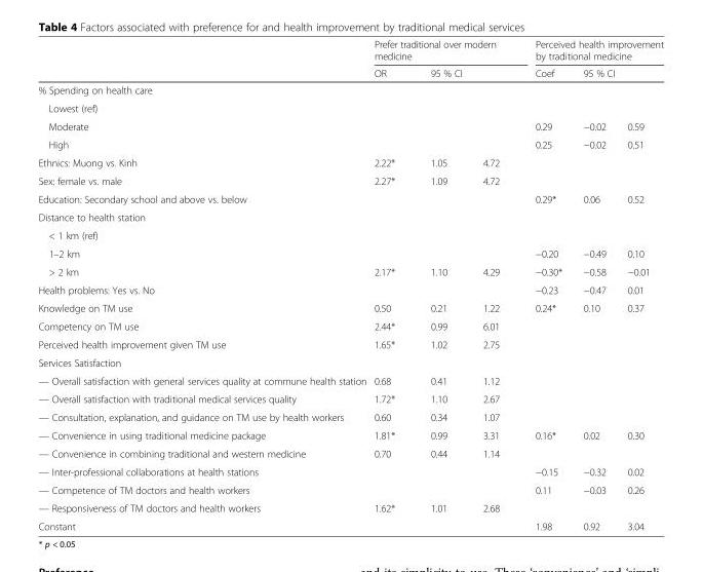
<table><thead><tr><td rowspan="3">% Spending on health care</td><td colspan="3">Prefer traditional over modern medicine</td><td colspan="3">Perceived health improvement by traditional medicine</td></tr><tr><td rowspan="2">OR</td><td colspan="2">95 % CI</td><td rowspan="2">Coef</td><td colspan="2">95 % CI</td></tr><tr><td></td><td></td><td></td><td></td></tr></thead><tbody><tr><td colspan="7">Lowest (ref)</td></tr><tr><td>Moderate</td><td></td><td></td><td></td><td>0.29</td><td>−0.02</td><td>0.59</td></tr><tr><td>High</td><td></td><td></td><td></td><td>0.25</td><td>−0.02</td><td>0.51</td></tr><tr><td>Ethnics: Muong vs. Kinh</td><td>2.22*</td><td>1.05</td><td>4.72</td><td></td><td></td><td></td></tr><tr><td>Sex: female vs. male</td><td>2.27*</td><td>1.09</td><td>4.72</td><td></td><td></td><td></td></tr><tr><td>Education: Secondary school and above vs. below</td><td></td><td></td><td></td><td>0.29*</td><td>0.06</td><td>0.52</td></tr><tr><td colspan="7">Distance to health station</td></tr><tr><td colspan="7">&lt; 1 km (ref)</td></tr><tr><td>1–2 km</td><td></td><td></td><td></td><td>−0.20</td><td>−0.49</td><td>0.10</td></tr><tr><td>&gt; 2 km</td><td>2.17*</td><td>1.10</td><td>4.29</td><td>−0.30*</td><td>−0.58</td><td>−0.01</td></tr><tr><td>Health problems: Yes vs. No</td><td></td><td></td><td></td><td>−0.23</td><td>−0.47</td><td>0.01</td></tr><tr><td>Knowledge on TM use</td><td>0.50</td><td>0.21</td><td>1.22</td><td>0.24*</td><td>0.10</td><td>0.37</td></tr><tr><td>Competency on TM use</td><td>2.44*</td><td>0.99</td><td>6.01</td><td></td><td></td><td></td></tr><tr><td>Perceived health improvement given TM use</td><td>1.65*</td><td>1.02</td><td>2.75</td><td></td><td></td><td></td></tr><tr><td colspan="7">Services Satisfaction</td></tr><tr><td>— Overall satisfaction with general services quality at commune health station</td><td>0.68</td><td>0.41</td><td>1.12</td><td></td><td></td><td></td></tr><tr><td>— Overall satisfaction with traditional medical services quality</td><td>1.72*</td><td>1.10</td><td>2.67</td><td></td><td></td><td></td></tr><tr><td>— Consultation, explanation, and guidance on TM use by health workers</td><td>0.60</td><td>0.34</td><td>1.07</td><td></td><td></td><td></td></tr><tr><td>— Convenience in using traditional medicine package</td><td>1.81*</td><td>0.99</td><td>3.31</td><td>0.16*</td><td>0.02</td><td>0.30</td></tr><tr><td>— Convenience in combining traditional and western medicine</td><td>0.70</td><td>0.44</td><td>1.14</td><td></td><td></td><td></td></tr><tr><td>— Inter-professional collaborations at health stations</td><td></td><td></td><td></td><td>−0.15</td><td>−0.32</td><td>0.02</td></tr><tr><td>— Competence of TM doctors and health workers</td><td></td><td></td><td></td><td>0.11</td><td>−0.03</td><td>0.26</td></tr><tr><td>— Responsiveness of TM doctors and health workers</td><td>1.62*</td><td>1.01</td><td>2.68</td><td></td><td></td><td></td></tr><tr><td>Constant</td><td></td><td></td><td></td><td>1.98</td><td>0.92</td><td>3.04</td></tr></tbody></table>